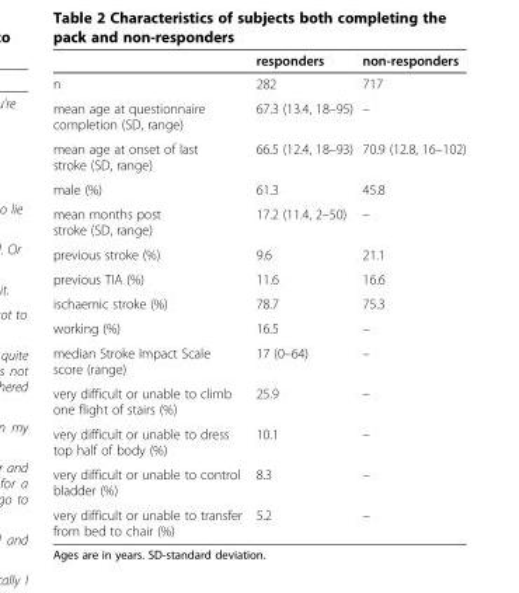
<table><thead><tr><td></td><td>responders</td><td>non-responders</td></tr></thead><tbody><tr><td>n</td><td>282</td><td>717</td></tr><tr><td>mean age at questionnaire completion (SD, range)</td><td>67.3 (13.4, 18–95)</td><td>–</td></tr><tr><td>mean age at onset of last stroke (SD, range)</td><td>66.5 (12.4, 18–93)</td><td>70.9 (12.8, 16–102)</td></tr><tr><td>male (%)</td><td>61.3</td><td>45.8</td></tr><tr><td>mean months post stroke (SD, range)</td><td>17.2 (11.4, 2–50)</td><td>–</td></tr><tr><td>previous stroke (%)</td><td>9.6</td><td>21.1</td></tr><tr><td>previous TIA (%)</td><td>11.6</td><td>16.6</td></tr><tr><td>ischaemic stroke (%)</td><td>78.7</td><td>75.3</td></tr><tr><td>working (%)</td><td>16.5</td><td>–</td></tr><tr><td>median Stroke Impact Scale score (range)</td><td>17 (0–64)</td><td>–</td></tr><tr><td>very difficult or unable to climb one flight of stairs (%)</td><td>25.9</td><td>–</td></tr><tr><td>very difficult or unable to dress top half of body (%)</td><td>10.1</td><td>–</td></tr><tr><td>very difficult or unable to control bladder (%)</td><td>8.3</td><td>–</td></tr><tr><td>very difficult or unable to transfer from bed to chair (%)</td><td>5.2</td><td>–</td></tr></tbody></table>